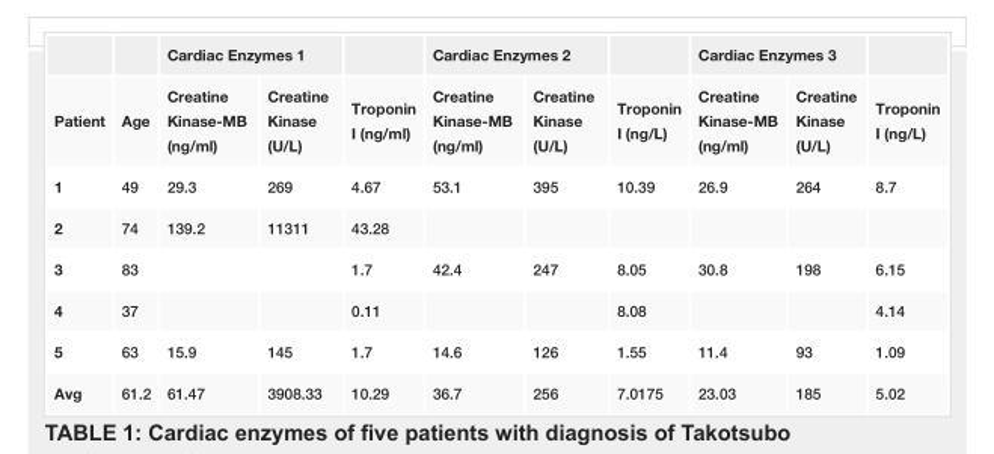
<table><thead><tr><td rowspan="2">Patient</td><td rowspan="2">Age</td><td colspan="2">Cardiac Enzymes 1</td><td rowspan="2">Troponin I (ng/ml)</td><td colspan="2">Cardiac Enzymes 2</td><td rowspan="2">Troponin I (ng/L)</td><td colspan="2">Cardiac Enzymes 3</td><td rowspan="2">Troponin I (ng/L)</td></tr><tr><td>Creatine Kinase-MB (ng/ml)</td><td>Creatine Kinase (U/L)</td><td>Creatine Kinase-MB (ng/ml)</td><td>Creatine Kinase (U/L)</td><td>Creatine Kinase-MB (ng/ml)</td><td>Creatine Kinase (U/L)</td></tr></thead><tbody><tr><td>1</td><td>49</td><td>29.3</td><td>269</td><td>4.67</td><td>53.1</td><td>395</td><td>10.39</td><td>26.9</td><td>264</td><td>8.7</td></tr><tr><td>2</td><td>74</td><td>139.2</td><td>11311</td><td>43.28</td><td></td><td></td><td></td><td></td><td></td><td></td></tr><tr><td>3</td><td>83</td><td></td><td></td><td>1.7</td><td>42.4</td><td>247</td><td>8.05</td><td>30.8</td><td>198</td><td>6.15</td></tr><tr><td>4</td><td>37</td><td></td><td></td><td>0.11</td><td></td><td></td><td>8.08</td><td></td><td></td><td>4.14</td></tr><tr><td>5</td><td>63</td><td>15.9</td><td>145</td><td>1.7</td><td>14.6</td><td>126</td><td>1.55</td><td>11.4</td><td>93</td><td>1.09</td></tr><tr><td>Avg</td><td>61.2</td><td>61.47</td><td>3908.33</td><td>10.29</td><td>36.7</td><td>256</td><td>7.0175</td><td>23.03</td><td>185</td><td>5.02</td></tr></tbody></table>